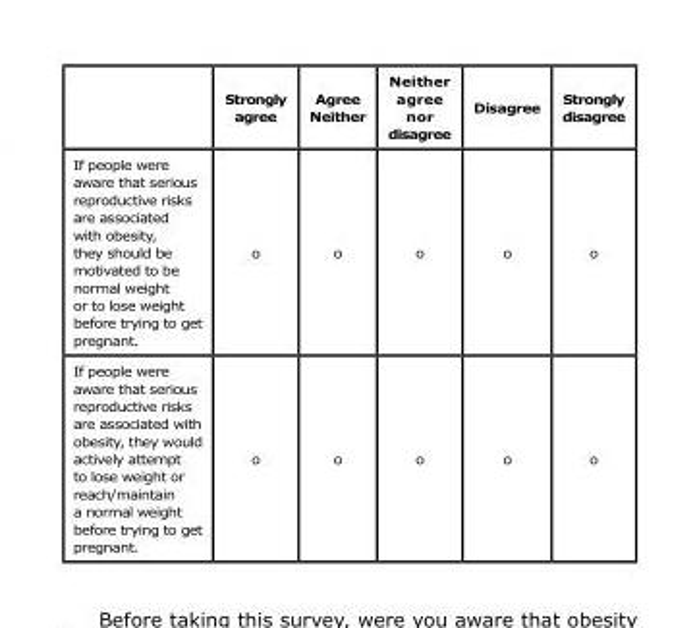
<table><thead><tr><td></td><td>Strongly agree</td><td>Agree Neither</td><td>Neither agree nor disagree</td><td>Disagree</td><td>Strongly disagree</td></tr></thead><tbody><tr><td>If people were aware that serious reproductive risks are associated with obesity, they should be motivated to be normal weight or to lose weight before trying to get pregnant.</td><td>○</td><td>○</td><td>○</td><td>○</td><td>○</td></tr><tr><td>If people were aware that serious reproductive risks are associated with obesity, they would actively attempt to lose weight or reach/maintain a normal weight before trying to get pregnant.</td><td>○</td><td>○</td><td>○</td><td>○</td><td>○</td></tr></tbody></table>